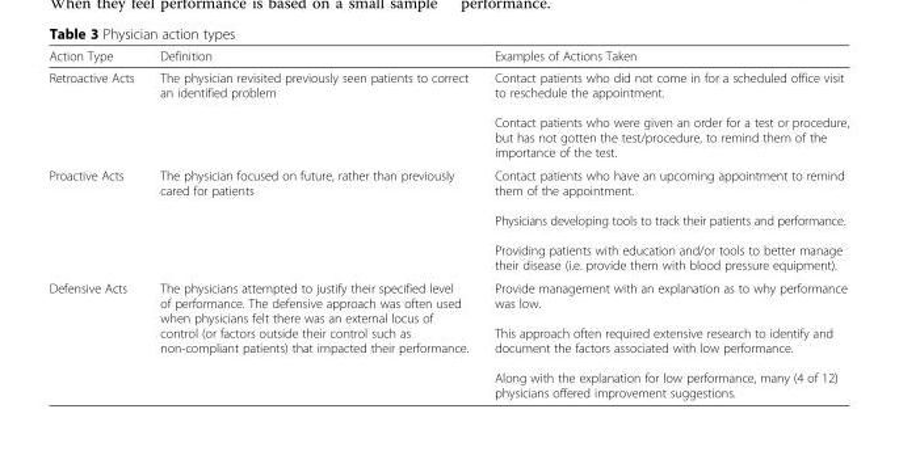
<table><thead><tr><td>Action Type</td><td>Definition</td><td>Examples of Actions Taken</td></tr></thead><tbody><tr><td>Retroactive Acts</td><td>The physician revisited previously seen patients to correct an identified problem</td><td>Contact patients who did not come in for a scheduled office visit to reschedule the appointment. Contact patients who were given an order for a test or procedure, but has not gotten the test/procedure, to remind them of the importance of the test.</td></tr><tr><td>Proactive Acts</td><td>The physician focused on future, rather than previously cared for patients</td><td>Contact patients who have an upcoming appointment to remind them of the appointment. Physicians developing tools to track their patients and performance. Providing patients with education and/or tools to better manage their disease (i.e. provide them with blood pressure equipment).</td></tr><tr><td>Defensive Acts</td><td>The physicians attempted to justify their specified level of performance. The defensive approach was often used when physicians felt there was an external locus of control (or factors outside their control such as non-compliant patients) that impacted their performance.</td><td>Provide management with an explanation as to why performance was low. This approach often required extensive research to identify and document the factors associated with low performance. Along with the explanation for low performance, many (4 of 12) physicians offered improvement suggestions.</td></tr></tbody></table>